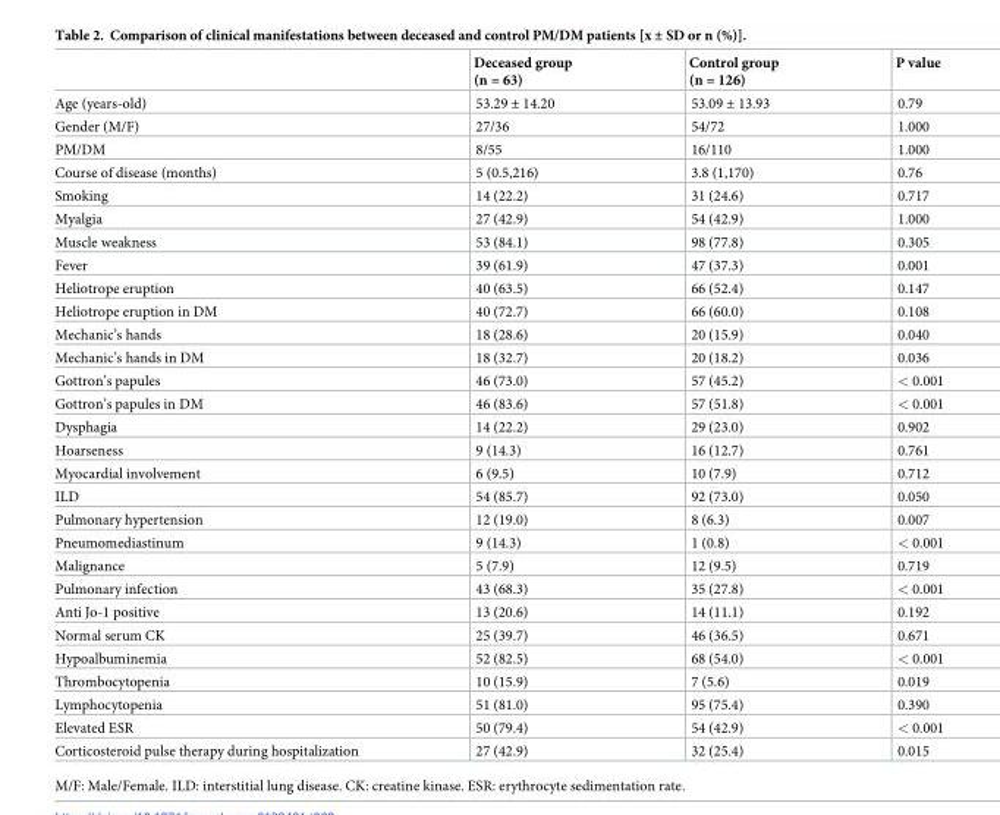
<table><thead><tr><td></td><td>Deceased group (n = 63)</td><td>Control group (n = 126)</td><td>P value</td></tr></thead><tbody><tr><td>Age (years-old)</td><td>53.29 ± 14.20</td><td>53.09 ± 13.93</td><td>0.79</td></tr><tr><td>Gender (M/F)</td><td>27/36</td><td>54/72</td><td>1.000</td></tr><tr><td>PM/DM</td><td>8/55</td><td>16/110</td><td>1.000</td></tr><tr><td>Course of disease (months)</td><td>5 (0.5,216)</td><td>3.8 (1,170)</td><td>0.76</td></tr><tr><td>Smoking</td><td>14 (22.2)</td><td>31 (24.6)</td><td>0.717</td></tr><tr><td>Myalgia</td><td>27 (42.9)</td><td>54 (42.9)</td><td>1.000</td></tr><tr><td>Muscle weakness</td><td>53 (84.1)</td><td>98 (77.8)</td><td>0.305</td></tr><tr><td>Fever</td><td>39 (61.9)</td><td>47 (37.3)</td><td>0.001</td></tr><tr><td>Heliotrope eruption</td><td>40 (63.5)</td><td>66 (52.4)</td><td>0.147</td></tr><tr><td>Heliotrope eruption in DM</td><td>40 (72.7)</td><td>66 (60.0)</td><td>0.108</td></tr><tr><td>Mechanic’s hands</td><td>18 (28.6)</td><td>20 (15.9)</td><td>0.040</td></tr><tr><td>Mechanic’s hands in DM</td><td>18 (32.7)</td><td>20 (18.2)</td><td>0.036</td></tr><tr><td>Gottron’s papules</td><td>46 (73.0)</td><td>57 (45.2)</td><td>&lt; 0.001</td></tr><tr><td>Gottron’s papules in DM</td><td>46 (83.6)</td><td>57 (51.8)</td><td>&lt; 0.001</td></tr><tr><td>Dysphagia</td><td>14 (22.2)</td><td>29 (23.0)</td><td>0.902</td></tr><tr><td>Hoarseness</td><td>9 (14.3)</td><td>16 (12.7)</td><td>0.761</td></tr><tr><td>Myocardial involvement</td><td>6 (9.5)</td><td>10 (7.9)</td><td>0.712</td></tr><tr><td>ILD</td><td>54 (85.7)</td><td>92 (73.0)</td><td>0.050</td></tr><tr><td>Pulmonary hypertension</td><td>12 (19.0)</td><td>8 (6.3)</td><td>0.007</td></tr><tr><td>Pneumomediastinum</td><td>9 (14.3)</td><td>1 (0.8)</td><td>&lt; 0.001</td></tr><tr><td>Malignance</td><td>5 (7.9)</td><td>12 (9.5)</td><td>0.719</td></tr><tr><td>Pulmonary infection</td><td>43 (68.3)</td><td>35 (27.8)</td><td>&lt; 0.001</td></tr><tr><td>Anti Jo-1 positive</td><td>13 (20.6)</td><td>14 (11.1)</td><td>0.192</td></tr><tr><td>Normal serum CK</td><td>25 (39.7)</td><td>46 (36.5)</td><td>0.671</td></tr><tr><td>Hypoalbuminemia</td><td>52 (82.5)</td><td>68 (54.0)</td><td>&lt; 0.001</td></tr><tr><td>Thrombocytopenia</td><td>10 (15.9)</td><td>7 (5.6)</td><td>0.019</td></tr><tr><td>Lymphocytopenia</td><td>51 (81.0)</td><td>95 (75.4)</td><td>0.390</td></tr><tr><td>Elevated ESR</td><td>50 (79.4)</td><td>54 (42.9)</td><td>&lt; 0.001</td></tr><tr><td>Corticosteroid pulse therapy during hospitalization</td><td>27 (42.9)</td><td>32 (25.4)</td><td>0.015</td></tr></tbody></table>